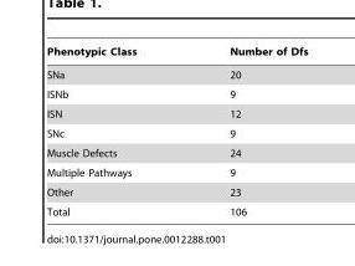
<table><thead><tr><td>Phenotypic Class</td><td>Number of Dfs</td></tr></thead><tbody><tr><td>SNa</td><td>20</td></tr><tr><td>ISNb</td><td>9</td></tr><tr><td>ISN</td><td>12</td></tr><tr><td>SNc</td><td>9</td></tr><tr><td>Muscle Defects</td><td>24</td></tr><tr><td>Multiple Pathways</td><td>9</td></tr><tr><td>Other</td><td>23</td></tr><tr><td>Total</td><td>106</td></tr></tbody></table>